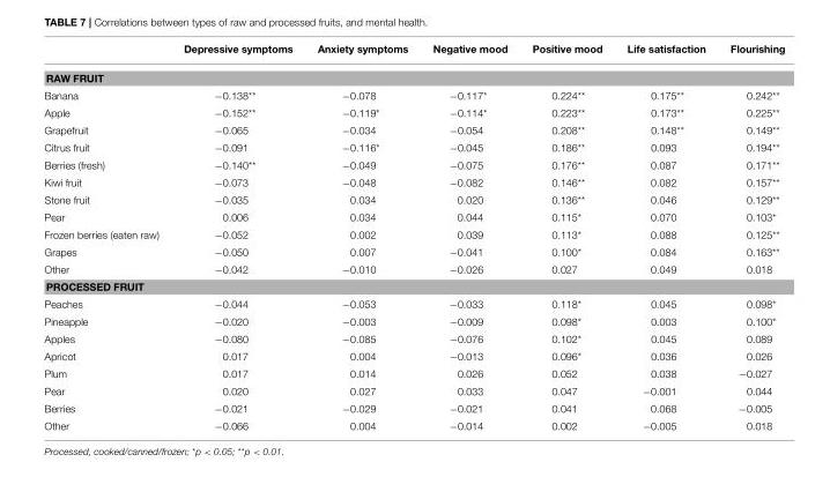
<table><thead><tr><td></td><td>Depressive symptoms</td><td>Anxiety symptoms</td><td>Negative mood</td><td>Positive mood</td><td>Life satisfaction</td><td>Flourishing</td></tr></thead><tbody><tr><td colspan="7">RAW FRUIT</td></tr><tr><td>Banana</td><td>−0.138**</td><td>−0.078</td><td>−0.117*</td><td>0.224**</td><td>0.175**</td><td>0.242**</td></tr><tr><td>Apple</td><td>−0.152**</td><td>−0.119*</td><td>−0.114*</td><td>0.223**</td><td>0.173**</td><td>0.225**</td></tr><tr><td>Grapefruit</td><td>−0.065</td><td>−0.034</td><td>−0.054</td><td>0.208**</td><td>0.148**</td><td>0.149**</td></tr><tr><td>Citrus fruit</td><td>−0.091</td><td>−0.116*</td><td>−0.045</td><td>0.186**</td><td>0.093</td><td>0.194**</td></tr><tr><td>Berries (fresh)</td><td>−0.140**</td><td>−0.049</td><td>−0.075</td><td>0.176**</td><td>0.087</td><td>0.171**</td></tr><tr><td>Kiwi fruit</td><td>−0.073</td><td>−0.048</td><td>−0.082</td><td>0.146**</td><td>0.082</td><td>0.157**</td></tr><tr><td>Stone fruit</td><td>−0.035</td><td>0.034</td><td>0.020</td><td>0.136**</td><td>0.046</td><td>0.129**</td></tr><tr><td>Pear</td><td>0.006</td><td>0.034</td><td>0.044</td><td>0.115*</td><td>0.070</td><td>0.103*</td></tr><tr><td>Frozen berries (eaten raw)</td><td>−0.052</td><td>0.002</td><td>0.039</td><td>0.113*</td><td>0.088</td><td>0.125**</td></tr><tr><td>Grapes</td><td>−0.050</td><td>0.007</td><td>−0.041</td><td>0.100*</td><td>0.084</td><td>0.163**</td></tr><tr><td>Other</td><td>−0.042</td><td>−0.010</td><td>−0.026</td><td>0.027</td><td>0.049</td><td>0.018</td></tr><tr><td colspan="7">PROCESSED FRUIT</td></tr><tr><td>Peaches</td><td>−0.044</td><td>−0.053</td><td>−0.033</td><td>0.118*</td><td>0.045</td><td>0.098*</td></tr><tr><td>Pineapple</td><td>−0.020</td><td>−0.003</td><td>−0.009</td><td>0.098*</td><td>0.003</td><td>0.100*</td></tr><tr><td>Apples</td><td>−0.080</td><td>−0.085</td><td>−0.076</td><td>0.102*</td><td>0.045</td><td>0.089</td></tr><tr><td>Apricot</td><td>0.017</td><td>0.004</td><td>−0.013</td><td>0.096*</td><td>0.036</td><td>0.026</td></tr><tr><td>Plum</td><td>0.017</td><td>0.014</td><td>0.026</td><td>0.052</td><td>0.038</td><td>−0.027</td></tr><tr><td>Pear</td><td>0.020</td><td>0.027</td><td>0.033</td><td>0.047</td><td>−0.001</td><td>0.044</td></tr><tr><td>Berries</td><td>−0.021</td><td>−0.029</td><td>−0.021</td><td>0.041</td><td>0.068</td><td>−0.005</td></tr><tr><td>Other</td><td>−0.066</td><td>0.004</td><td>−0.014</td><td>0.002</td><td>−0.005</td><td>0.018</td></tr></tbody></table>